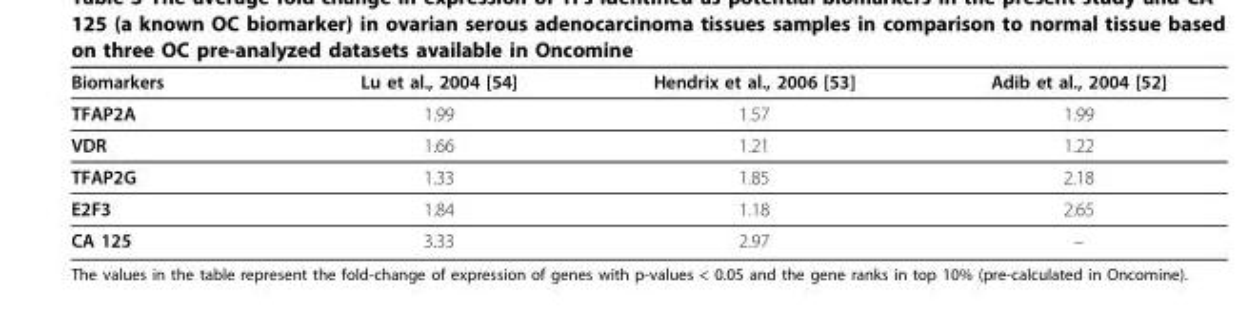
<table><thead><tr><td>Biomarkers</td><td>Lu et al., 2004 [54]</td><td>Hendrix et al., 2006 [53]</td><td>Adib et al., 2004 [52]</td></tr></thead><tbody><tr><td>TFAP2A</td><td>1.99</td><td>1.57</td><td>1.99</td></tr><tr><td>VDR</td><td>1.66</td><td>1.21</td><td>1.22</td></tr><tr><td>TFAP2G</td><td>1.33</td><td>1.85</td><td>2.18</td></tr><tr><td>E2F3</td><td>1.84</td><td>1.18</td><td>2.65</td></tr><tr><td>CA 125</td><td>3.33</td><td>2.97</td><td>–</td></tr></tbody></table>